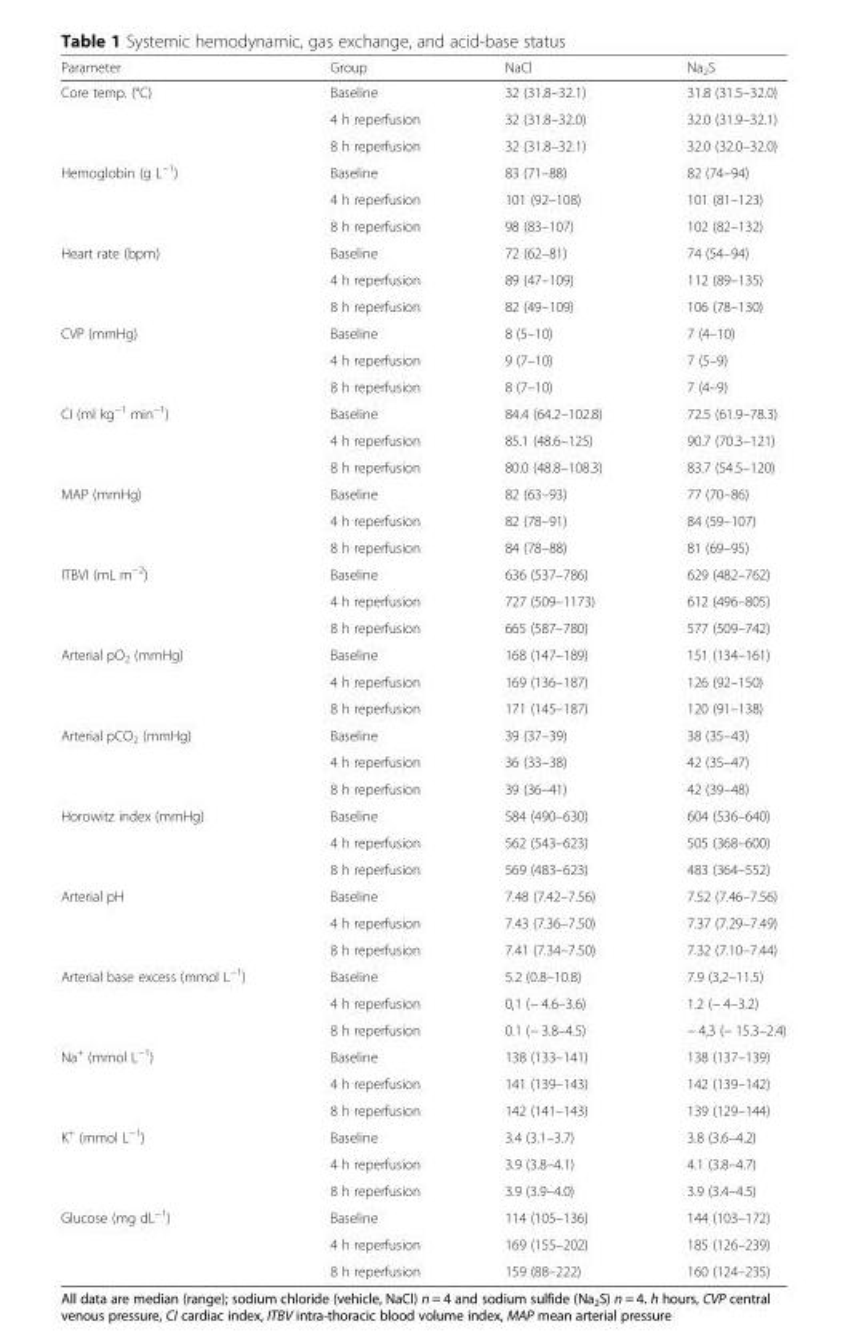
<table><thead><tr><td>Parameter</td><td>Group</td><td>NaCl</td><td>Na<sub>2</sub>S</td></tr></thead><tbody><tr><td rowspan="3">Core temp. (°C)</td><td>Baseline</td><td>32 (31.8–32.1)</td><td>31.8 (31.5–32.0)</td></tr><tr><td>4 h reperfusion</td><td>32 (31.8–32.0)</td><td>32.0 (31.9–32.1)</td></tr><tr><td>8 h reperfusion</td><td>32 (31.8–32.1)</td><td>32.0 (32.0–32.0)</td></tr><tr><td rowspan="3">Hemoglobin (g L<sup>−1</sup>)</td><td>Baseline</td><td>83 (71–88)</td><td>82 (74–94)</td></tr><tr><td>4 h reperfusion</td><td>101 (92–108)</td><td>101 (81–123)</td></tr><tr><td>8 h reperfusion</td><td>98 (83–107)</td><td>102 (82–132)</td></tr><tr><td rowspan="3">Heart rate (bpm)</td><td>Baseline</td><td>72 (62–81)</td><td>74 (54–94)</td></tr><tr><td>4 h reperfusion</td><td>89 (47–109)</td><td>112 (89–135)</td></tr><tr><td>8 h reperfusion</td><td>82 (49–109)</td><td>106 (78–130)</td></tr><tr><td rowspan="3">CVP (mmHg)</td><td>Baseline</td><td>8 (5–10)</td><td>7 (4–10)</td></tr><tr><td>4 h reperfusion</td><td>9 (7–10)</td><td>7 (5–9)</td></tr><tr><td>8 h reperfusion</td><td>8 (7–10)</td><td>7 (4–9)</td></tr><tr><td rowspan="3">CI (ml kg<sup>−1</sup> min<sup>−1</sup>)</td><td>Baseline</td><td>84.4 (64.2–102.8)</td><td>72.5 (61.9–78.3)</td></tr><tr><td>4 h reperfusion</td><td>85.1 (48.6–125)</td><td>90.7 (70.3–121)</td></tr><tr><td>8 h reperfusion</td><td>80.0 (48.8–108.3)</td><td>83.7 (54.5–120)</td></tr><tr><td rowspan="3">MAP (mmHg)</td><td>Baseline</td><td>82 (63–93)</td><td>77 (70–86)</td></tr><tr><td>4 h reperfusion</td><td>82 (78–91)</td><td>84 (59–107)</td></tr><tr><td>8 h reperfusion</td><td>84 (78–88)</td><td>81 (69–95)</td></tr><tr><td rowspan="3">ITBVI (mL m<sup>−2</sup>)</td><td>Baseline</td><td>636 (537–786)</td><td>629 (482–762)</td></tr><tr><td>4 h reperfusion</td><td>727 (509–1173)</td><td>612 (496–805)</td></tr><tr><td>8 h reperfusion</td><td>665 (587–780)</td><td>577 (509–742)</td></tr><tr><td rowspan="3">Arterial pO<sub>2</sub> (mmHg)</td><td>Baseline</td><td>168 (147–189)</td><td>151 (134–161)</td></tr><tr><td>4 h reperfusion</td><td>169 (136–187)</td><td>126 (92–150)</td></tr><tr><td>8 h reperfusion</td><td>171 (145–187)</td><td>120 (91–138)</td></tr><tr><td rowspan="3">Arterial pCO<sub>2</sub> (mmHg)</td><td>Baseline</td><td>39 (37–39)</td><td>38 (35–43)</td></tr><tr><td>4 h reperfusion</td><td>36 (33–38)</td><td>42 (35–47)</td></tr><tr><td>8 h reperfusion</td><td>39 (36–41)</td><td>42 (39–48)</td></tr><tr><td rowspan="3">Horowitz index (mmHg)</td><td>Baseline</td><td>584 (490–630)</td><td>604 (536–640)</td></tr><tr><td>4 h reperfusion</td><td>562 (543–623)</td><td>505 (368–600)</td></tr><tr><td>8 h reperfusion</td><td>569 (483–623)</td><td>483 (364–552)</td></tr><tr><td rowspan="3">Arterial pH</td><td>Baseline</td><td>7.48 (7.42–7.56)</td><td>7.52 (7.46–7.56)</td></tr><tr><td>4 h reperfusion</td><td>7.43 (7.36–7.50)</td><td>7.37 (7.29–7.49)</td></tr><tr><td>8 h reperfusion</td><td>7.41 (7.34–7.50)</td><td>7.32 (7.10–7.44)</td></tr><tr><td rowspan="3">Arterial base excess (mmol L<sup>−1</sup>)</td><td>Baseline</td><td>5.2 (0.8–10.8)</td><td>7.9 (3,2–11.5)</td></tr><tr><td>4 h reperfusion</td><td>0,1 (− 4.6–3.6)</td><td>1.2 (− 4–3.2)</td></tr><tr><td>8 h reperfusion</td><td>0.1 (− 3.8–4.5)</td><td>− 4,3 (− 15.3–2.4)</td></tr><tr><td rowspan="3">Na<sup>+</sup> (mmol L<sup>−1</sup>)</td><td>Baseline</td><td>138 (133–141)</td><td>138 (137–139)</td></tr><tr><td>4 h reperfusion</td><td>141 (139–143)</td><td>142 (139–142)</td></tr><tr><td>8 h reperfusion</td><td>142 (141–143)</td><td>139 (129–144)</td></tr><tr><td rowspan="3">K<sup>+</sup> (mmol L<sup>−1</sup>)</td><td>Baseline</td><td>3.4 (3.1–3.7)</td><td>3.8 (3.6–4.2)</td></tr><tr><td>4 h reperfusion</td><td>3.9 (3.8–4.1)</td><td>4.1 (3.8–4.7)</td></tr><tr><td>8 h reperfusion</td><td>3.9 (3.9–4.0)</td><td>3.9 (3.4–4.5)</td></tr><tr><td rowspan="3">Glucose (mg dL<sup>−1</sup>)</td><td>Baseline</td><td>114 (105–136)</td><td>144 (103–172)</td></tr><tr><td>4 h reperfusion</td><td>169 (155–202)</td><td>185 (126–239)</td></tr><tr><td>8 h reperfusion</td><td>159 (88–222)</td><td>160 (124–235)</td></tr></tbody></table>